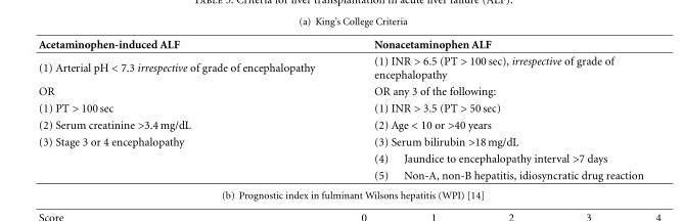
<table><thead><tr><td>Acetaminophen-induced ALF</td><td>Nonacetaminophen ALF</td></tr></thead><tbody><tr><td>(1) Arterial pH &lt; 7.3 irrespective of grade of encephalopathy</td><td>(1) INR &gt; 6.5 (PT &gt; 100 sec), irrespective of grade of encephalopathy</td></tr><tr><td>OR</td><td>OR any 3 of the following:</td></tr><tr><td>(1) PT &gt; 100 sec</td><td>(1) INR &gt; 3.5 (PT &gt; 50 sec)</td></tr><tr><td>(2) Serum creatinine &gt;3.4 mg/dL</td><td>(2) Age &lt; 10 or &gt;40 years</td></tr><tr><td rowspan="3">(3) Stage 3 or 4 encephalopathy</td><td>(3) Serum bilirubin &gt;18 mg/dL</td></tr><tr><td>(4) Jaundice to encephalopathy interval &gt;7 days</td></tr><tr><td>(5) Non-A, non-B hepatitis, idiosyncratic drug reaction</td></tr></tbody></table>